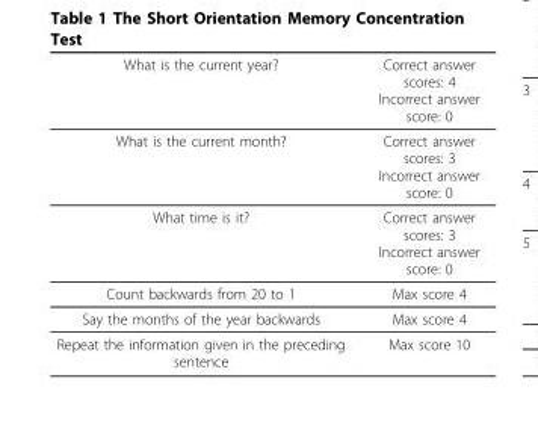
<table><thead><tr><td>What is the current year?</td><td>Correct answer scores: 4 Incorrect answer score: 0</td></tr></thead><tbody><tr><td>What is the current month?</td><td>Correct answer scores: 3 Incorrect answer score: 0</td></tr><tr><td>What time is it?</td><td>Correct answer scores: 3 Incorrect answer score: 0</td></tr><tr><td>Count backwards from 20 to 1</td><td>Max score 4</td></tr><tr><td>Say the months of the year backwards</td><td>Max score 4</td></tr><tr><td>Repeat the information given in the preceding sentence</td><td>Max score 10</td></tr></tbody></table>